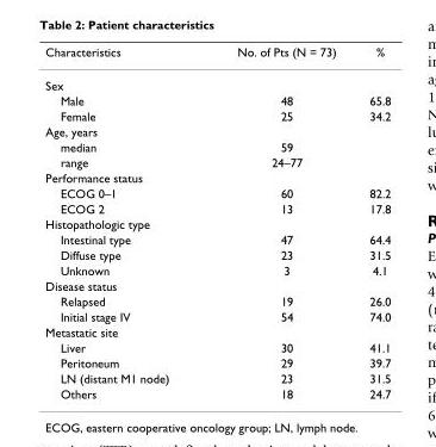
<table><thead><tr><td>Characteristics</td><td>No. of Pts (N = 73)</td><td>%</td></tr></thead><tbody><tr><td colspan="3">Sex</td></tr><tr><td>Male</td><td>48</td><td>65.8</td></tr><tr><td>Female</td><td>25</td><td>34.2</td></tr><tr><td colspan="3">Age, years</td></tr><tr><td>median</td><td>59</td><td></td></tr><tr><td>range</td><td>24–77</td><td></td></tr><tr><td colspan="3">Performance status</td></tr><tr><td>ECOG 0–1</td><td>60</td><td>82.2</td></tr><tr><td>ECOG 2</td><td>13</td><td>17.8</td></tr><tr><td colspan="3">Histopathologic type</td></tr><tr><td>Intestinal type</td><td>47</td><td>64.4</td></tr><tr><td>Diffuse type</td><td>23</td><td>31.5</td></tr><tr><td>Unknown</td><td>3</td><td>4.1</td></tr><tr><td colspan="3">Disease status</td></tr><tr><td>Relapsed</td><td>19</td><td>26.0</td></tr><tr><td>Initial stage IV</td><td>54</td><td>74.0</td></tr><tr><td colspan="3">Metastatic site</td></tr><tr><td>Liver</td><td>30</td><td>41.1</td></tr><tr><td>Peritoneum</td><td>29</td><td>39.7</td></tr><tr><td>LN (distant M1 node)</td><td>23</td><td>31.5</td></tr><tr><td>Others</td><td>18</td><td>24.7</td></tr></tbody></table>